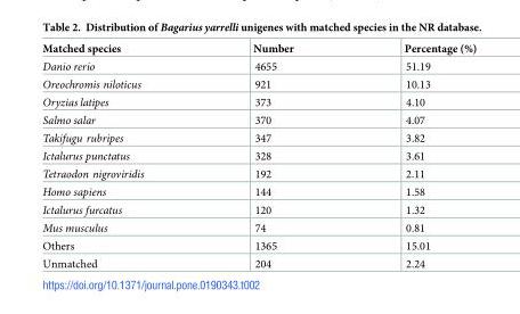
<table><thead><tr><td>Matched species</td><td>Number</td><td>Percentage (%)</td></tr></thead><tbody><tr><td>Danio rerio</td><td>4655</td><td>51.19</td></tr><tr><td>Oreochromis niloticus</td><td>921</td><td>10.13</td></tr><tr><td>Oryzias latipes</td><td>373</td><td>4.10</td></tr><tr><td>Salmo salar</td><td>370</td><td>4.07</td></tr><tr><td>Takifugu rubripes</td><td>347</td><td>3.82</td></tr><tr><td>Ictalurus punctatus</td><td>328</td><td>3.61</td></tr><tr><td>Tetraodon nigroviridis</td><td>192</td><td>2.11</td></tr><tr><td>Homo sapiens</td><td>144</td><td>1.58</td></tr><tr><td>Ictalurus furcatus</td><td>120</td><td>1.32</td></tr><tr><td>Mus musculus</td><td>74</td><td>0.81</td></tr><tr><td>Others</td><td>1365</td><td>15.01</td></tr><tr><td>Unmatched</td><td>204</td><td>2.24</td></tr></tbody></table>